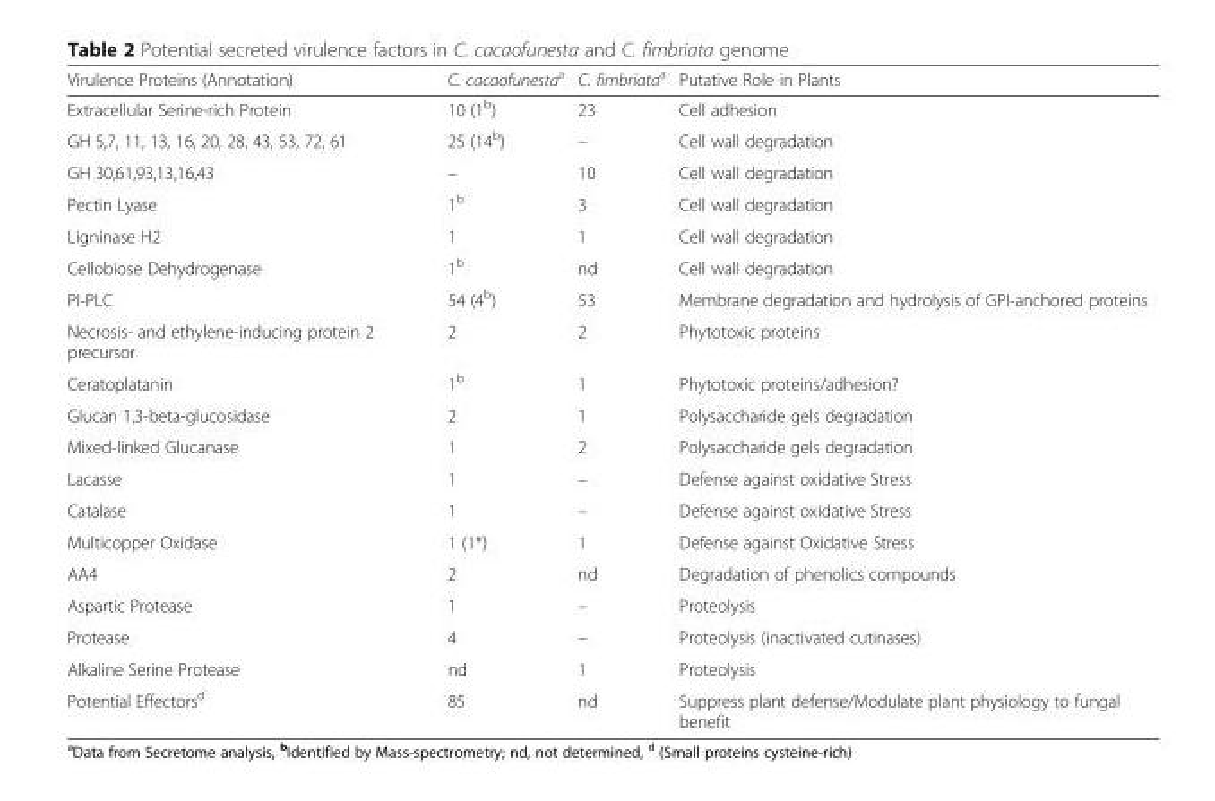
<table><thead><tr><td>Virulence Proteins (Annotation)</td><td>C. cacaofunesta<sup>a</sup></td><td>C. fimbriata<sup>a</sup></td><td>Putative Role in Plants</td></tr></thead><tbody><tr><td>Extracellular Serine-rich Protein</td><td>10 (1<sup>b</sup>)</td><td>23</td><td>Cell adhesion</td></tr><tr><td>GH 5,7, 11, 13, 16, 20, 28, 43, 53, 72, 61</td><td>25 (14<sup>b</sup>)</td><td>–</td><td>Cell wall degradation</td></tr><tr><td>GH 30,61,93,13,16,43</td><td>–</td><td>10</td><td>Cell wall degradation</td></tr><tr><td>Pectin Lyase</td><td>1<sup>b</sup></td><td>3</td><td>Cell wall degradation</td></tr><tr><td>Ligninase H2</td><td>1</td><td>1</td><td>Cell wall degradation</td></tr><tr><td>Cellobiose Dehydrogenase</td><td>1<sup>b</sup></td><td>nd</td><td>Cell wall degradation</td></tr><tr><td>PI-PLC</td><td>54 (4<sup>b</sup>)</td><td>53</td><td>Membrane degradation and hydrolysis of GPI-anchored proteins</td></tr><tr><td>Necrosis- and ethylene-inducing protein 2 precursor</td><td>2</td><td>2</td><td>Phytotoxic proteins</td></tr><tr><td>Ceratoplatanin</td><td>1<sup>b</sup></td><td>1</td><td>Phytotoxic proteins/adhesion?</td></tr><tr><td>Glucan 1,3-beta-glucosidase</td><td>2</td><td>1</td><td>Polysaccharide gels degradation</td></tr><tr><td>Mixed-linked Glucanase</td><td>1</td><td>2</td><td>Polysaccharide gels degradation</td></tr><tr><td>Lacasse</td><td>1</td><td>–</td><td>Defense against oxidative Stress</td></tr><tr><td>Catalase</td><td>1</td><td>–</td><td>Defense against oxidative Stress</td></tr><tr><td>Multicopper Oxidase</td><td>1 (1*)</td><td>1</td><td>Defense against Oxidative Stress</td></tr><tr><td>AA4</td><td>2</td><td>nd</td><td>Degradation of phenolics compounds</td></tr><tr><td>Aspartic Protease</td><td>1</td><td>–</td><td>Proteolysis</td></tr><tr><td>Protease</td><td>4</td><td>–</td><td>Proteolysis (inactivated cutinases)</td></tr><tr><td>Alkaline Serine Protease</td><td>nd</td><td>1</td><td>Proteolysis</td></tr><tr><td>Potential Effectors<sup>d</sup></td><td>85</td><td>nd</td><td>Suppress plant defense/Modulate plant physiology to fungal benefit</td></tr></tbody></table>